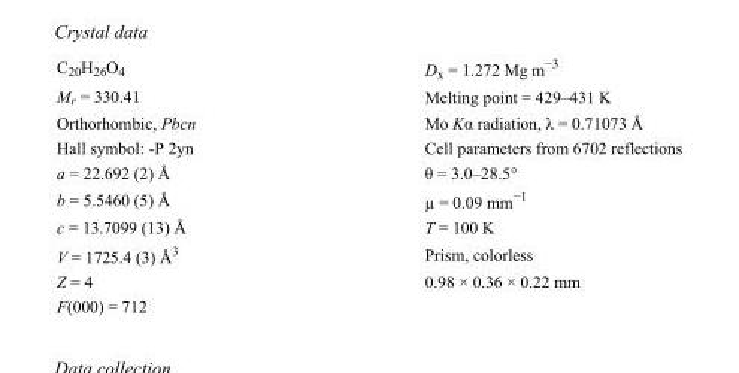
<table><tbody><tr><td>C<sub>20</sub>H<sub>26</sub>O<sub>4</sub></td><td>D<sub>x</sub> = 1.272 Mg m<sup>−3</sup></td></tr><tr><td>M<sub>r</sub> = 330.41</td><td>Melting point = 429–431 K</td></tr><tr><td>Orthorhombic, Pbcn</td><td>Mo Kα radiation, λ = 0.71073 Å</td></tr><tr><td>Hall symbol: -P 2yn</td><td>Cell parameters from 6702 reflections</td></tr><tr><td>a = 22.692 (2) Å</td><td>θ = 3.0–28.5°</td></tr><tr><td>b = 5.5460 (5) Å</td><td>µ = 0.09 mm<sup>−1</sup></td></tr><tr><td>c = 13.7099 (13) Å</td><td>T = 100 K</td></tr><tr><td>V = 1725.4 (3) Å<sup>3</sup></td><td>Prism, colorless</td></tr><tr><td>Z = 4</td><td>0.98 × 0.36 × 0.22 mm</td></tr><tr><td>F(000) = 712</td><td></td></tr></tbody></table>